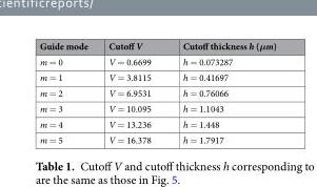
<table><thead><tr><td>Guide mode</td><td>Cutoff V</td><td>Cutoff thickness h (μm)</td></tr></thead><tbody><tr><td>m = 0</td><td>V = 0.6699</td><td>h = 0.073287</td></tr><tr><td>m = 1</td><td>V = 3.8115</td><td>h = 0.41697</td></tr><tr><td>m = 2</td><td>V = 6.9531</td><td>h = 0.76066</td></tr><tr><td>m = 3</td><td>V = 10.095</td><td>h = 1.1043</td></tr><tr><td>m = 4</td><td>V = 13.236</td><td>h = 1.448</td></tr><tr><td>m = 5</td><td>V = 16.378</td><td>h = 1.7917</td></tr></tbody></table>